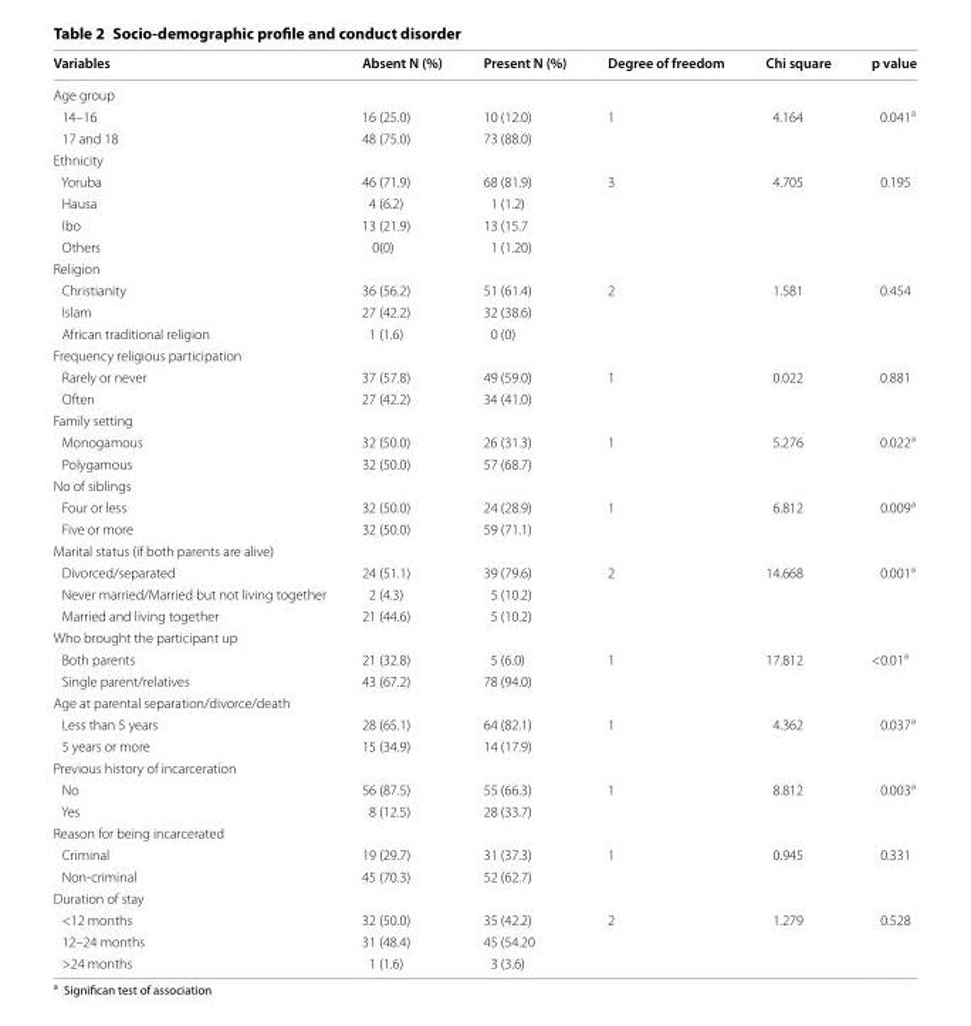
<table><thead><tr><td>Variables</td><td>Absent N (%)</td><td>Present N (%)</td><td>Degree of freedom</td><td>Chi square</td><td>p value</td></tr></thead><tbody><tr><td colspan="6">Age group</td></tr><tr><td>14–16</td><td>16 (25.0)</td><td>10 (12.0)</td><td>1</td><td>4.164</td><td>0.041<sup>a</sup></td></tr><tr><td>17 and 18</td><td>48 (75.0)</td><td>73 (88.0)</td><td></td><td></td><td></td></tr><tr><td colspan="6">Ethnicity</td></tr><tr><td>Yoruba</td><td>46 (71.9)</td><td>68 (81.9)</td><td>3</td><td>4.705</td><td>0.195</td></tr><tr><td>Hausa</td><td>4 (6.2)</td><td>1 (1.2)</td><td></td><td></td><td></td></tr><tr><td>Ibo</td><td>13 (21.9)</td><td>13 (15.7</td><td></td><td></td><td></td></tr><tr><td>Others</td><td>0(0)</td><td>1 (1.20)</td><td></td><td></td><td></td></tr><tr><td colspan="6">Religion</td></tr><tr><td>Christianity</td><td>36 (56.2)</td><td>51 (61.4)</td><td>2</td><td>1.581</td><td>0.454</td></tr><tr><td>Islam</td><td>27 (42.2)</td><td>32 (38.6)</td><td></td><td></td><td></td></tr><tr><td>African traditional religion</td><td>1 (1.6)</td><td>0 (0)</td><td></td><td></td><td></td></tr><tr><td colspan="6">Frequency religious participation</td></tr><tr><td>Rarely or never</td><td>37 (57.8)</td><td>49 (59.0)</td><td>1</td><td>0.022</td><td>0.881</td></tr><tr><td>Often</td><td>27 (42.2)</td><td>34 (41.0)</td><td></td><td></td><td></td></tr><tr><td colspan="6">Family setting</td></tr><tr><td>Monogamous</td><td>32 (50.0)</td><td>26 (31.3)</td><td>1</td><td>5.276</td><td>0.022<sup>a</sup></td></tr><tr><td>Polygamous</td><td>32 (50.0)</td><td>57 (68.7)</td><td></td><td></td><td></td></tr><tr><td colspan="6">No of siblings</td></tr><tr><td>Four or less</td><td>32 (50.0)</td><td>24 (28.9)</td><td>1</td><td>6.812</td><td>0.009<sup>a</sup></td></tr><tr><td>Five or more</td><td>32 (50.0)</td><td>59 (71.1)</td><td></td><td></td><td></td></tr><tr><td colspan="6">Marital status (if both parents are alive)</td></tr><tr><td>Divorced/separated</td><td>24 (51.1)</td><td>39 (79.6)</td><td>2</td><td>14.668</td><td>0.001<sup>a</sup></td></tr><tr><td>Never married/Married but not living together</td><td>2 (4.3)</td><td>5 (10.2)</td><td></td><td></td><td></td></tr><tr><td>Married and living together</td><td>21 (44.6)</td><td>5 (10.2)</td><td></td><td></td><td></td></tr><tr><td colspan="6">Who brought the participant up</td></tr><tr><td>Both parents</td><td>21 (32.8)</td><td>5 (6.0)</td><td>1</td><td>17.812</td><td>&lt;0.01<sup>a</sup></td></tr><tr><td>Single parent/relatives</td><td>43 (67.2)</td><td>78 (94.0)</td><td></td><td></td><td></td></tr><tr><td colspan="6">Age at parental separation/divorce/death</td></tr><tr><td>Less than 5 years</td><td>28 (65.1)</td><td>64 (82.1)</td><td>1</td><td>4.362</td><td>0.037<sup>a</sup></td></tr><tr><td>5 years or more</td><td>15 (34.9)</td><td>14 (17.9)</td><td></td><td></td><td></td></tr><tr><td colspan="6">Previous history of incarceration</td></tr><tr><td>No</td><td>56 (87.5)</td><td>55 (66.3)</td><td>1</td><td>8.812</td><td>0.003<sup>a</sup></td></tr><tr><td>Yes</td><td>8 (12.5)</td><td>28 (33.7)</td><td></td><td></td><td></td></tr><tr><td colspan="6">Reason for being incarcerated</td></tr><tr><td>Criminal</td><td>19 (29.7)</td><td>31 (37.3)</td><td>1</td><td>0.945</td><td>0.331</td></tr><tr><td>Non-criminal</td><td>45 (70.3)</td><td>52 (62.7)</td><td></td><td></td><td></td></tr><tr><td colspan="6">Duration of stay</td></tr><tr><td>&lt;12 months</td><td>32 (50.0)</td><td>35 (42.2)</td><td>2</td><td>1.279</td><td>0.528</td></tr><tr><td>12–24 months</td><td>31 (48.4)</td><td>45 (54.20</td><td></td><td></td><td></td></tr><tr><td>&gt;24 months</td><td>1 (1.6)</td><td>3 (3.6)</td><td></td><td></td><td></td></tr></tbody></table>